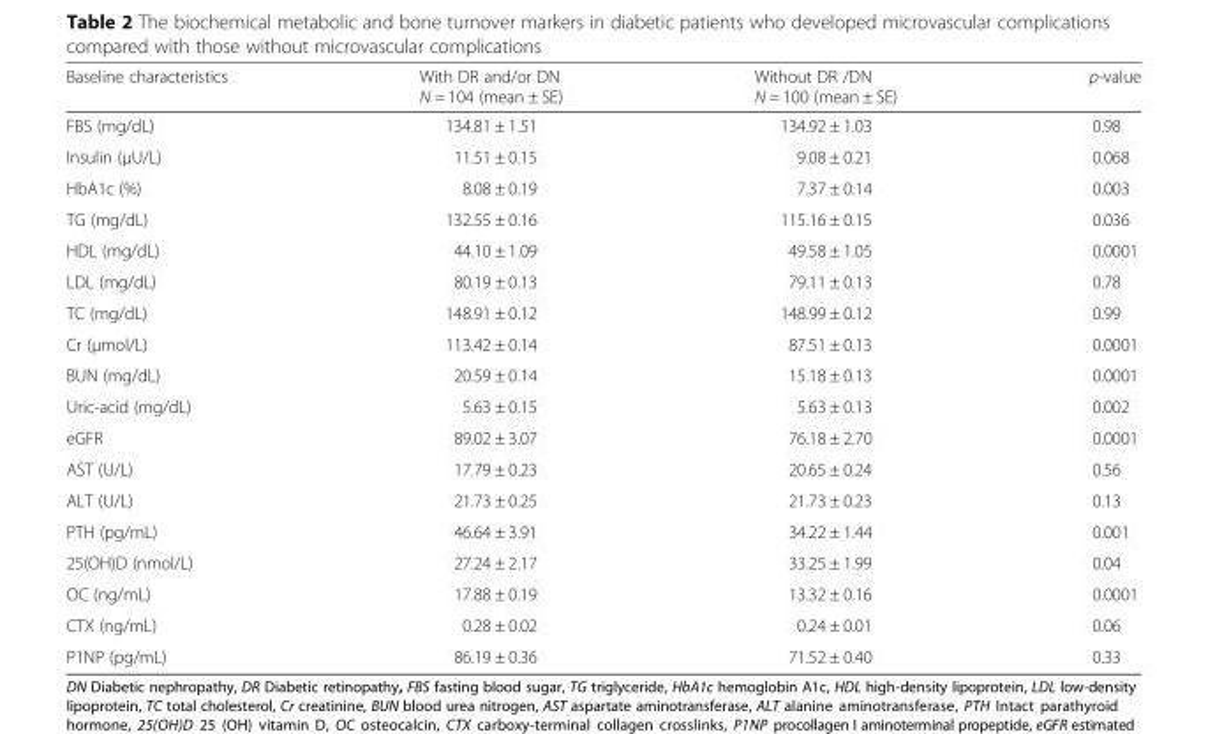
<table><thead><tr><td>Baseline characteristics</td><td>With DR and/or DN N = 104 (mean ± SE)</td><td>Without DR /DN N = 100 (mean ± SE)</td><td>p-value</td></tr></thead><tbody><tr><td>FBS (mg/dL)</td><td>134.81 ± 1.51</td><td>134.92 ± 1.03</td><td>0.98</td></tr><tr><td>Insulin (μU/L)</td><td>11.51 ± 0.15</td><td>9.08 ± 0.21</td><td>0.068</td></tr><tr><td>HbA1c (%)</td><td>8.08 ± 0.19</td><td>7.37 ± 0.14</td><td>0.003</td></tr><tr><td>TG (mg/dL)</td><td>132.55 ± 0.16</td><td>115.16 ± 0.15</td><td>0.036</td></tr><tr><td>HDL (mg/dL)</td><td>44.10 ± 1.09</td><td>49.58 ± 1.05</td><td>0.0001</td></tr><tr><td>LDL (mg/dL)</td><td>80.19 ± 0.13</td><td>79.11 ± 0.13</td><td>0.78</td></tr><tr><td>TC (mg/dL)</td><td>148.91 ± 0.12</td><td>148.99 ± 0.12</td><td>0.99</td></tr><tr><td>Cr (μmol/L)</td><td>113.42 ± 0.14</td><td>87.51 ± 0.13</td><td>0.0001</td></tr><tr><td>BUN (mg/dL)</td><td>20.59 ± 0.14</td><td>15.18 ± 0.13</td><td>0.0001</td></tr><tr><td>Uric-acid (mg/dL)</td><td>5.63 ± 0.15</td><td>5.63 ± 0.13</td><td>0.002</td></tr><tr><td>eGFR</td><td>89.02 ± 3.07</td><td>76.18 ± 2.70</td><td>0.0001</td></tr><tr><td>AST (U/L)</td><td>17.79 ± 0.23</td><td>20.65 ± 0.24</td><td>0.56</td></tr><tr><td>ALT (U/L)</td><td>21.73 ± 0.25</td><td>21.73 ± 0.23</td><td>0.13</td></tr><tr><td>PTH (pg/mL)</td><td>46.64 ± 3.91</td><td>34.22 ± 1.44</td><td>0.001</td></tr><tr><td>25(OH)D (nmol/L)</td><td>27.24 ± 2.17</td><td>33.25 ± 1.99</td><td>0.04</td></tr><tr><td>OC (ng/mL)</td><td>17.88 ± 0.19</td><td>13.32 ± 0.16</td><td>0.0001</td></tr><tr><td>CTX (ng/mL)</td><td>0.28 ± 0.02</td><td>0.24 ± 0.01</td><td>0.06</td></tr><tr><td>P1NP (pg/mL)</td><td>86.19 ± 0.36</td><td>71.52 ± 0.40</td><td>0.33</td></tr></tbody></table>